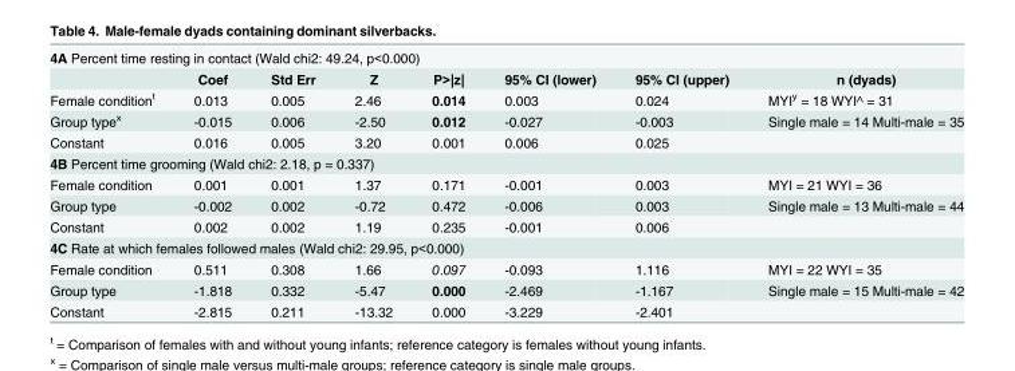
<table><tbody><tr><td colspan="8">4A Percent time resting in contact (Wald chi2: 49.24, p&lt;0.000)</td></tr><tr><td></td><td>Coef</td><td>Std Err</td><td>Z</td><td>P&gt;|z|</td><td>95% CI (lower)</td><td>95% CI (upper)</td><td>n (dyads)</td></tr><tr><td>Female condition<sup>t</sup></td><td>0.013</td><td>0.005</td><td>2.46</td><td>0.014</td><td>0.003</td><td>0.024</td><td>MYI<sup>y</sup> = 18 WYI^ = 31</td></tr><tr><td>Group type<sup>x</sup></td><td>-0.015</td><td>0.006</td><td>-2.50</td><td>0.012</td><td>-0.027</td><td>-0.003</td><td>Single male = 14 Multi-male = 35</td></tr><tr><td>Constant</td><td>0.016</td><td>0.005</td><td>3.20</td><td>0.001</td><td>0.006</td><td>0.025</td><td></td></tr><tr><td colspan="8">4B Percent time grooming (Wald chi2: 2.18, p = 0.337)</td></tr><tr><td>Female condition</td><td>0.001</td><td>0.001</td><td>1.37</td><td>0.171</td><td>-0.001</td><td>0.003</td><td>MYI = 21 WYI = 36</td></tr><tr><td>Group type</td><td>-0.002</td><td>0.002</td><td>-0.72</td><td>0.472</td><td>-0.006</td><td>0.003</td><td>Single male = 13 Multi-male = 44</td></tr><tr><td>Constant</td><td>0.002</td><td>0.002</td><td>1.19</td><td>0.235</td><td>-0.001</td><td>0.006</td><td></td></tr><tr><td colspan="8">4C Rate at which females followed males (Wald chi2: 29.95, p&lt;0.000)</td></tr><tr><td>Female condition</td><td>0.511</td><td>0.308</td><td>1.66</td><td>0.097</td><td>-0.093</td><td>1.116</td><td>MYI = 22 WYI = 35</td></tr><tr><td>Group type</td><td>-1.818</td><td>0.332</td><td>-5.47</td><td>0.000</td><td>-2.469</td><td>-1.167</td><td>Single male = 15 Multi-male = 42</td></tr><tr><td>Constant</td><td>-2.815</td><td>0.211</td><td>-13.32</td><td>0.000</td><td>-3.229</td><td>-2.401</td><td></td></tr></tbody></table>